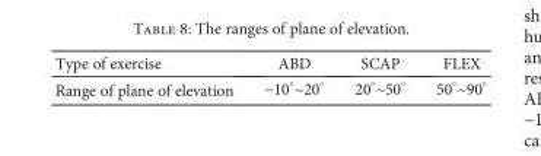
<table><thead><tr><td>Type of exercise</td><td>ABD</td><td>SCAP</td><td>FLEX</td></tr></thead><tbody><tr><td>Range of plane of elevation</td><td>−10°~20°</td><td>20°~50°</td><td>50°~90°</td></tr></tbody></table>